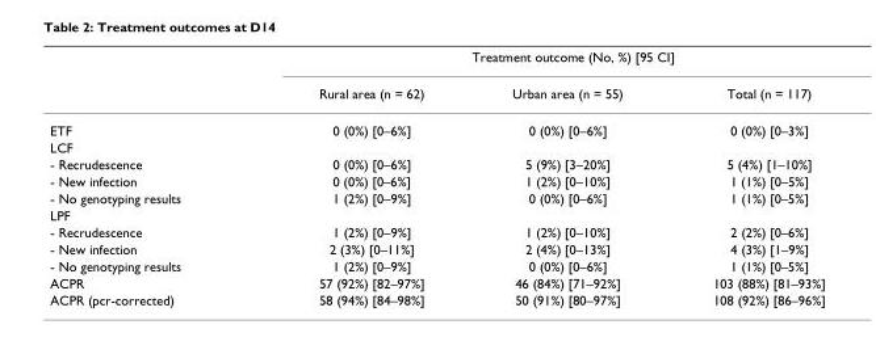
<table><thead><tr><td rowspan="2"></td><td colspan="3">Treatment outcome (No, %) [95 CI]</td></tr><tr><td>Rural area (n = 62)</td><td>Urban area (n = 55)</td><td>Total (n = 117)</td></tr></thead><tbody><tr><td>ETF</td><td>0 (0%) [0–6%]</td><td>0 (0%) [0–6%]</td><td>0 (0%) [0–3%]</td></tr><tr><td colspan="4">LCF</td></tr><tr><td>- Recrudescence</td><td>0 (0%) [0–6%]</td><td>5 (9%) [3–20%]</td><td>5 (4%) [1–10%]</td></tr><tr><td>- New infection</td><td>0 (0%) [0–6%]</td><td>1 (2%) [0–10%]</td><td>1 (1%) [0–5%]</td></tr><tr><td>- No genotyping results</td><td>1 (2%) [0–9%]</td><td>0 (0%) [0–6%]</td><td>1 (1%) [0–5%]</td></tr><tr><td colspan="4">LPF</td></tr><tr><td>- Recrudescence</td><td>1 (2%) [0–9%]</td><td>1 (2%) [0–10%]</td><td>2 (2%) [0–6%]</td></tr><tr><td>- New infection</td><td>2 (3%) [0–11%]</td><td>2 (4%) [0–13%]</td><td>4 (3%) [1–9%]</td></tr><tr><td>- No genotyping results</td><td>1 (2%) [0–9%]</td><td>0 (0%) [0–6%]</td><td>1 (1%) [0–5%]</td></tr><tr><td>ACPR</td><td>57 (92%) [82–97%]</td><td>46 (84%) [71–92%]</td><td>103 (88%) [81–93%]</td></tr><tr><td>ACPR (pcr-corrected)</td><td>58 (94%) [84–98%]</td><td>50 (91%) [80–97%]</td><td>108 (92%) [86–96%]</td></tr></tbody></table>